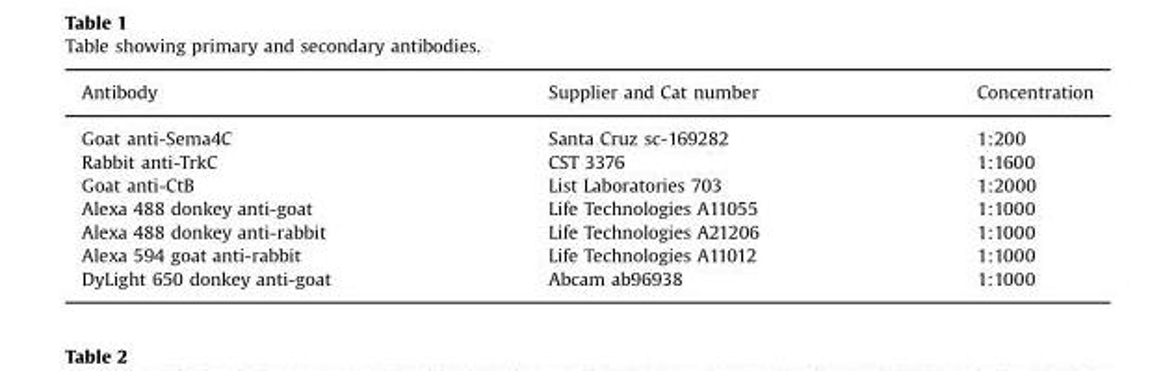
<table><thead><tr><td>Antibody</td><td>Supplier and Cat number</td><td>Concentration</td></tr></thead><tbody><tr><td>Goat anti-Sema4C</td><td>Santa Cruz sc-169282</td><td>1:200</td></tr><tr><td>Rabbit anti-TrkC</td><td>CST 3376</td><td>1:1600</td></tr><tr><td>Goat anti-CtB</td><td>List Laboratories 703</td><td>1:2000</td></tr><tr><td>Alexa 488 donkey anti-goat</td><td>Life Technologies A11055</td><td>1:1000</td></tr><tr><td>Alexa 488 donkey anti-rabbit</td><td>Life Technologies A21206</td><td>1:1000</td></tr><tr><td>Alexa 594 goat anti-rabbit</td><td>Life Technologies A11012</td><td>1:1000</td></tr><tr><td>DyLight 650 donkey anti-goat</td><td>Abcam ab96938</td><td>1:1000</td></tr></tbody></table>